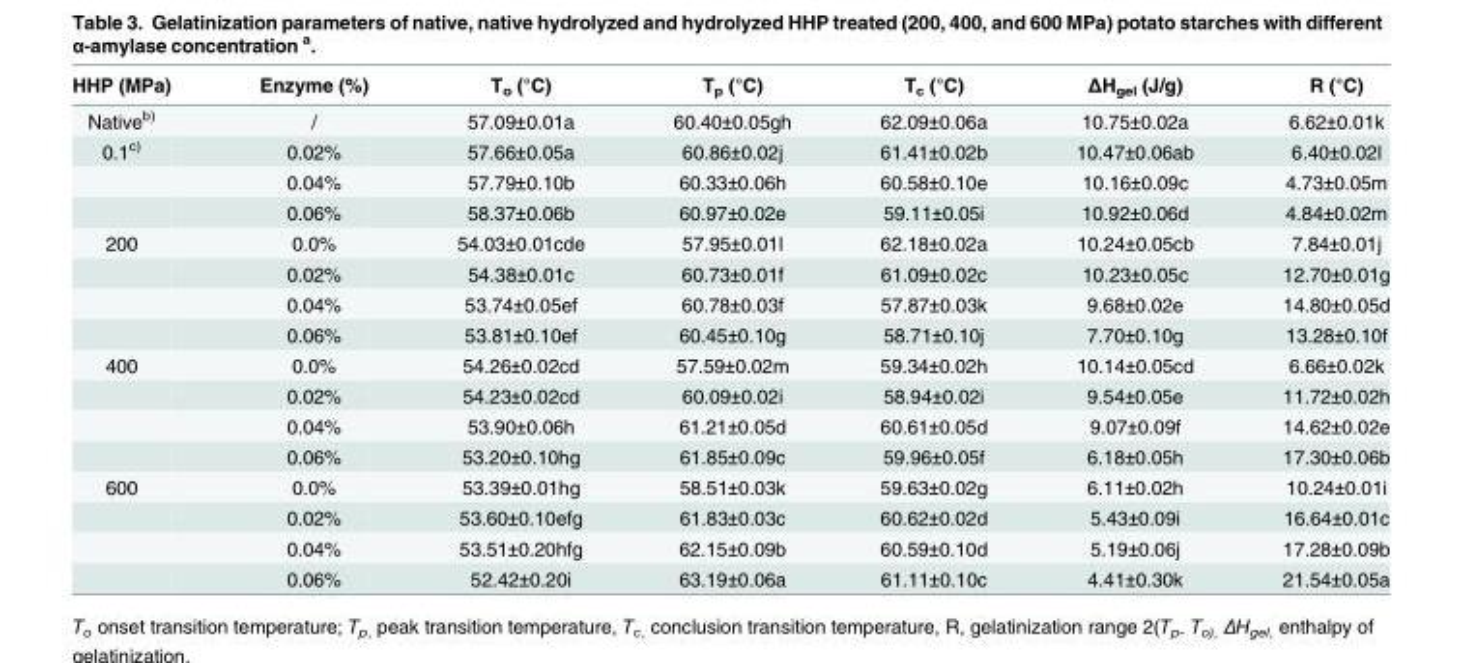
<table><thead><tr><td>HHP (MPa)</td><td>Enzyme (%)</td><td>T<sub>o</sub> (°C)</td><td>T<sub>p</sub> (°C)</td><td>T<sub>c</sub> (°C)</td><td>ΔH<sub>gel</sub> (J/g)</td><td>R (°C)</td></tr></thead><tbody><tr><td>Native<sup>b)</sup></td><td>/</td><td>57.09±0.01a</td><td>60.40±0.05gh</td><td>62.09±0.06a</td><td>10.75±0.02a</td><td>6.62±0.01k</td></tr><tr><td rowspan="3">0.1<sup>c)</sup></td><td>0.02%</td><td>57.66±0.05a</td><td>60.86±0.02j</td><td>61.41±0.02b</td><td>10.47±0.06ab</td><td>6.40±0.02l</td></tr><tr><td>0.04%</td><td>57.79±0.10b</td><td>60.33±0.06h</td><td>60.58±0.10e</td><td>10.16±0.09c</td><td>4.73±0.05m</td></tr><tr><td>0.06%</td><td>58.37±0.06b</td><td>60.97±0.02e</td><td>59.11±0.05i</td><td>10.92±0.06d</td><td>4.84±0.02m</td></tr><tr><td rowspan="4">200</td><td>0.0%</td><td>54.03±0.01cde</td><td>57.95±0.01l</td><td>62.18±0.02a</td><td>10.24±0.05cb</td><td>7.84±0.01j</td></tr><tr><td>0.02%</td><td>54.38±0.01c</td><td>60.73±0.01f</td><td>61.09±0.02c</td><td>10.23±0.05c</td><td>12.70±0.01g</td></tr><tr><td>0.04%</td><td>53.74±0.05ef</td><td>60.78±0.03f</td><td>57.87±0.03k</td><td>9.68±0.02e</td><td>14.80±0.05d</td></tr><tr><td>0.06%</td><td>53.81±0.10ef</td><td>60.45±0.10g</td><td>58.71±0.10j</td><td>7.70±0.10g</td><td>13.28±0.10f</td></tr><tr><td rowspan="4">400</td><td>0.0%</td><td>54.26±0.02cd</td><td>57.59±0.02m</td><td>59.34±0.02h</td><td>10.14±0.05cd</td><td>6.66±0.02k</td></tr><tr><td>0.02%</td><td>54.23±0.02cd</td><td>60.09±0.02i</td><td>58.94±0.02i</td><td>9.54±0.05e</td><td>11.72±0.02h</td></tr><tr><td>0.04%</td><td>53.90±0.06h</td><td>61.21±0.05d</td><td>60.61±0.05d</td><td>9.07±0.09f</td><td>14.62±0.02e</td></tr><tr><td>0.06%</td><td>53.20±0.10hg</td><td>61.85±0.09c</td><td>59.96±0.05f</td><td>6.18±0.05h</td><td>17.30±0.06b</td></tr><tr><td rowspan="4">600</td><td>0.0%</td><td>53.39±0.01hg</td><td>58.51±0.03k</td><td>59.63±0.02g</td><td>6.11±0.02h</td><td>10.24±0.01i</td></tr><tr><td>0.02%</td><td>53.60±0.10efg</td><td>61.83±0.03c</td><td>60.62±0.02d</td><td>5.43±0.09i</td><td>16.64±0.01c</td></tr><tr><td>0.04%</td><td>53.51±0.20hfg</td><td>62.15±0.09b</td><td>60.59±0.10d</td><td>5.19±0.06j</td><td>17.28±0.09b</td></tr><tr><td>0.06%</td><td>52.42±0.20i</td><td>63.19±0.06a</td><td>61.11±0.10c</td><td>4.41±0.30k</td><td>21.54±0.05a</td></tr></tbody></table>